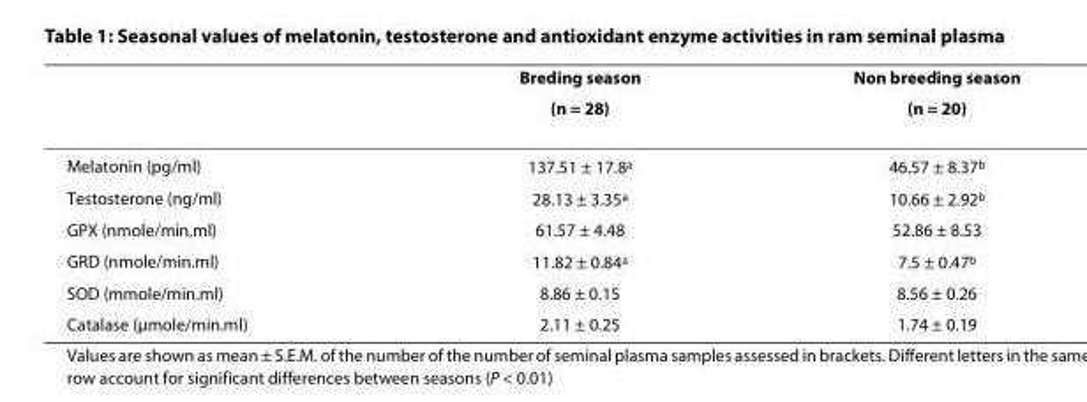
<table><thead><tr><td rowspan="2"></td><td rowspan="2">Breding season (n = 28)</td><td rowspan="2">Non breeding season (n = 20)</td></tr><tr></tr></thead><tbody><tr><td>Melatonin (pg/ml)</td><td>137.51 ± 17.8<sup>a</sup></td><td>46.57 ± 8.37<sup>b</sup></td></tr><tr><td>Testosterone (ng/ml)</td><td>28.13 ± 3.35<sup>a</sup></td><td>10.66 ± 2.92<sup>b</sup></td></tr><tr><td>GPX (nmole/min.ml)</td><td>61.57 ± 4.48</td><td>52.86 ± 8.53</td></tr><tr><td>GRD (nmole/min.ml)</td><td>11.82 ± 0.84<sup>a</sup></td><td>7.5 ± 0.47<sup>b</sup></td></tr><tr><td>SOD (mmole/min.ml)</td><td>8.86 ± 0.15</td><td>8.56 ± 0.26</td></tr><tr><td>Catalase (μmole/min.ml)</td><td>2.11 ± 0.25</td><td>1.74 ± 0.19</td></tr></tbody></table>